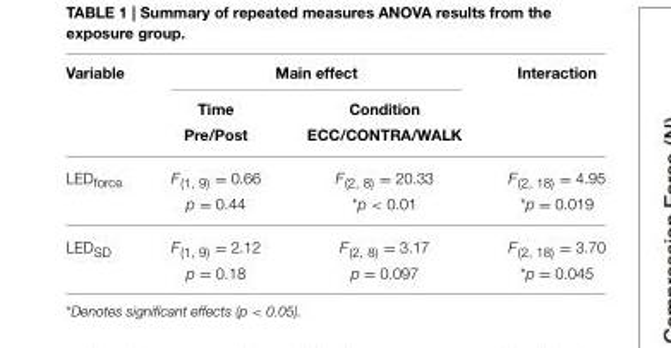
<table><thead><tr><td rowspan="2">Variable</td><td colspan="2">Main effect</td><td rowspan="2">Interaction</td></tr><tr><td>Time Pre/Post</td><td>Condition ECC/CONTRA/WALK</td></tr></thead><tbody><tr><td rowspan="2">LED<sub>force</sub></td><td>F<sub>(1, 9)</sub> = 0.66</td><td>F<sub>(2, 8)</sub> = 20.33</td><td>F<sub>(2, 18)</sub> = 4.95</td></tr><tr><td>p = 0.44</td><td>*p &lt; 0.01</td><td>*p = 0.019</td></tr><tr><td rowspan="2">LED<sub>SD</sub></td><td>F<sub>(1, 9)</sub> = 2.12</td><td>F<sub>(2, 8)</sub> = 3.17</td><td>F<sub>(2, 18)</sub> = 3.70</td></tr><tr><td>p = 0.18</td><td>p = 0.097</td><td>*p = 0.045</td></tr></tbody></table>